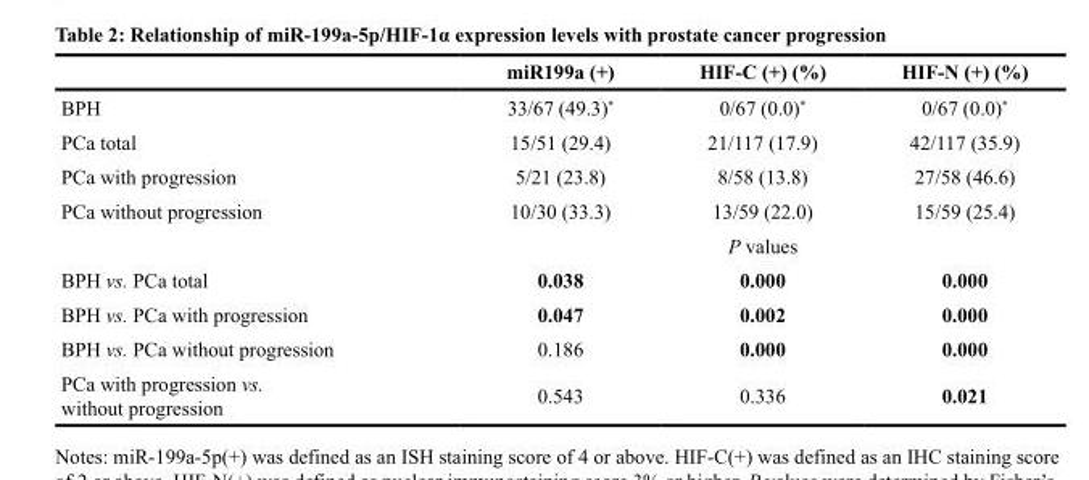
<table><thead><tr><td></td><td>miR199a (+)</td><td>HIF-C (+) (%)</td><td>HIF-N (+) (%)</td></tr></thead><tbody><tr><td>BPH</td><td>33/67 (49.3)*</td><td>0/67 (0.0)*</td><td>0/67 (0.0)*</td></tr><tr><td>PCa total</td><td>15/51 (29.4)</td><td>21/117 (17.9)</td><td>42/117 (35.9)</td></tr><tr><td>PCa with progression</td><td>5/21 (23.8)</td><td>8/58 (13.8)</td><td>27/58 (46.6)</td></tr><tr><td rowspan="2">PCa without progression</td><td>10/30 (33.3)</td><td>13/59 (22.0)</td><td>15/59 (25.4)</td></tr><tr><td></td><td>P values</td><td></td></tr><tr><td>BPH vs. PCa total</td><td>0.038</td><td>0.000</td><td>0.000</td></tr><tr><td>BPH vs. PCa with progression</td><td>0.047</td><td>0.002</td><td>0.000</td></tr><tr><td>BPH vs. PCa without progression</td><td>0.186</td><td>0.000</td><td>0.000</td></tr><tr><td>PCa with progression vs. without progression</td><td>0.543</td><td>0.336</td><td>0.021</td></tr></tbody></table>